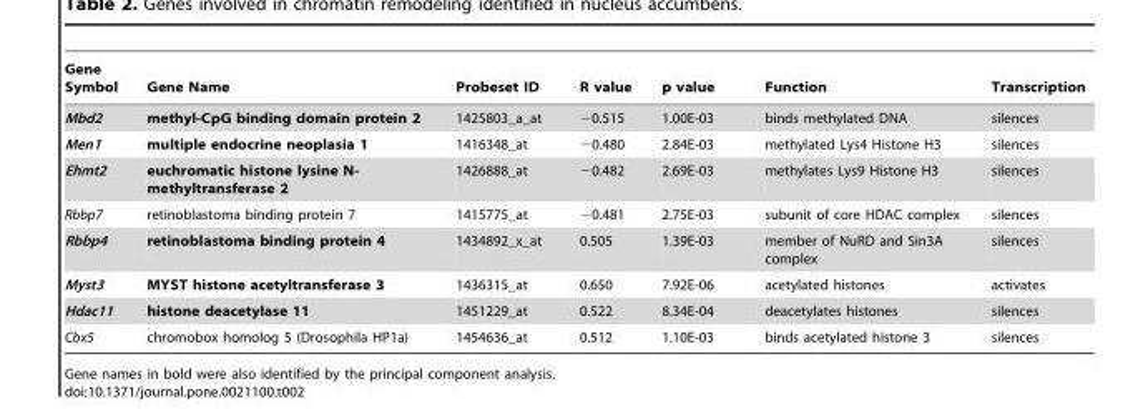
<table><thead><tr><td>Gene Symbol</td><td>Gene Name</td><td>Probeset ID</td><td>R value</td><td>p value</td><td>Function</td><td>Transcription</td></tr></thead><tbody><tr><td>Mbd2</td><td>methyl-CpG binding domain protein 2</td><td>1425803_a_at</td><td>−0.515</td><td>1.00E-03</td><td>binds methylated DNA</td><td>silences</td></tr><tr><td>Men1</td><td>multiple endocrine neoplasia 1</td><td>1416348_at</td><td>−0.480</td><td>2.84E-03</td><td>methylated Lys4 Histone H3</td><td>silences</td></tr><tr><td>Ehmt2</td><td>euchromatic histone lysine N- methyltransferase 2</td><td>1426888_at</td><td>−0.482</td><td>2.69E-03</td><td>methylates Lys9 Histone H3</td><td>silences</td></tr><tr><td>Rbbp7</td><td>retinoblastoma binding protein 7</td><td>1415775_at</td><td>−0.481</td><td>2.75E-03</td><td>subunit of core HDAC complex</td><td>silences</td></tr><tr><td>Rbbp4</td><td>retinoblastoma binding protein 4</td><td>1434892_x_at</td><td>0.505</td><td>1.39E-03</td><td>member of NuRD and Sin3A complex</td><td>silences</td></tr><tr><td>Myst3</td><td>MYST histone acetyltransferase 3</td><td>1436315_at</td><td>0.650</td><td>7.92E-06</td><td>acetylated histones</td><td>activates</td></tr><tr><td>Hdac11</td><td>histone deacetylase 11</td><td>1451229_at</td><td>0.522</td><td>8.34E-04</td><td>deacetylates histones</td><td>silences</td></tr><tr><td>Cbx5</td><td>chromobox homolog 5 (Drosophila HP1a)</td><td>1454636_at</td><td>0.512</td><td>1.10E-03</td><td>binds acetylated histone 3</td><td>silences</td></tr></tbody></table>